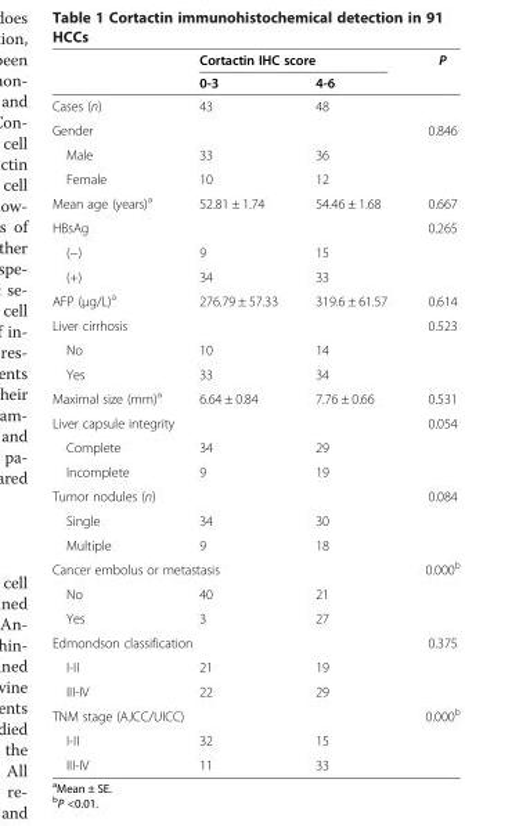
<table><thead><tr><td rowspan="2"></td><td colspan="2">Cortactin IHC score</td><td rowspan="2">P</td></tr><tr><td>0-3</td><td>4-6</td></tr></thead><tbody><tr><td>Cases (n)</td><td>43</td><td>48</td><td></td></tr><tr><td colspan="3">Gender</td><td>0.846</td></tr><tr><td>Male</td><td>33</td><td>36</td><td></td></tr><tr><td>Female</td><td>10</td><td>12</td><td></td></tr><tr><td>Mean age (years)<sup>a</sup></td><td>52.81 ± 1.74</td><td>54.46 ± 1.68</td><td>0.667</td></tr><tr><td colspan="3">HBsAg</td><td>0.265</td></tr><tr><td>(−)</td><td>9</td><td>15</td><td></td></tr><tr><td>(+)</td><td>34</td><td>33</td><td></td></tr><tr><td>AFP (μg/L)<sup>a</sup></td><td>276.79 ± 57.33</td><td>319.6 ± 61.57</td><td>0.614</td></tr><tr><td colspan="3">Liver cirrhosis</td><td>0.523</td></tr><tr><td>No</td><td>10</td><td>14</td><td></td></tr><tr><td>Yes</td><td>33</td><td>34</td><td></td></tr><tr><td>Maximal size (mm)<sup>a</sup></td><td>6.64 ± 0.84</td><td>7.76 ± 0.66</td><td>0.531</td></tr><tr><td colspan="3">Liver capsule integrity</td><td>0.054</td></tr><tr><td>Complete</td><td>34</td><td>29</td><td></td></tr><tr><td>Incomplete</td><td>9</td><td>19</td><td></td></tr><tr><td colspan="3">Tumor nodules (n)</td><td>0.084</td></tr><tr><td>Single</td><td>34</td><td>30</td><td></td></tr><tr><td>Multiple</td><td>9</td><td>18</td><td></td></tr><tr><td colspan="3">Cancer embolus or metastasis</td><td>0.000<sup>b</sup></td></tr><tr><td>No</td><td>40</td><td>21</td><td></td></tr><tr><td>Yes</td><td>3</td><td>27</td><td></td></tr><tr><td colspan="3">Edmondson classification</td><td>0.375</td></tr><tr><td>I-II</td><td>21</td><td>19</td><td></td></tr><tr><td>III-IV</td><td>22</td><td>29</td><td></td></tr><tr><td colspan="3">TNM stage (AJCC/UICC)</td><td>0.000<sup>b</sup></td></tr><tr><td>I-II</td><td>32</td><td>15</td><td></td></tr><tr><td>III-IV</td><td>11</td><td>33</td><td></td></tr></tbody></table>